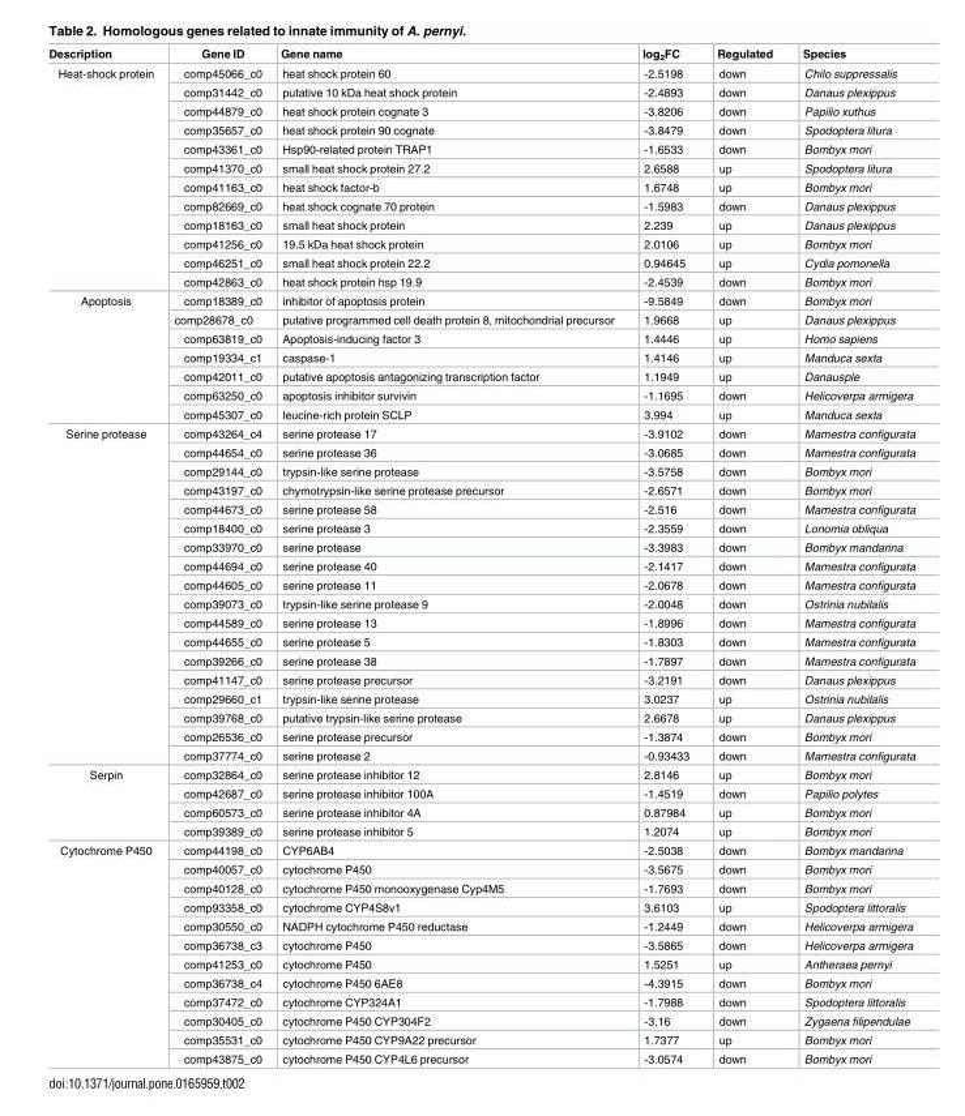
<table><thead><tr><td>Description</td><td>Gene ID</td><td>Gene name</td><td>log<sub>2</sub>FC</td><td>Regulated</td><td>Species</td></tr></thead><tbody><tr><td rowspan="12">Heat-shock protein</td><td>comp45066_c0</td><td>heat shock protein 60</td><td>-2.5198</td><td>down</td><td>Chilo suppressalis</td></tr><tr><td>comp31442_c0</td><td>putative 10 kDa heat shock protein</td><td>-2.4893</td><td>down</td><td>Danaus plexippus</td></tr><tr><td>comp44879_c0</td><td>heat shock protein cognate 3</td><td>-3.8206</td><td>down</td><td>Papilio xuthus</td></tr><tr><td>comp35657_c0</td><td>heat shock protein 90 cognate</td><td>-3.8479</td><td>down</td><td>Spodoptera litura</td></tr><tr><td>comp43361_c0</td><td>Hsp90-related protein TRAP1</td><td>-1.6533</td><td>down</td><td>Bombyx mori</td></tr><tr><td>comp41370_c0</td><td>small heat shock protein 27.2</td><td>2.6588</td><td>up</td><td>Spodoptera litura</td></tr><tr><td>comp41163_c0</td><td>heat shock factor-b</td><td>1.6748</td><td>up</td><td>Bombyx mori</td></tr><tr><td>comp82669_c0</td><td>heat shock cognate 70 protein</td><td>-1.5983</td><td>down</td><td>Danaus plexippus</td></tr><tr><td>comp18163_c0</td><td>small heat shock protein</td><td>2.239</td><td>up</td><td>Danaus plexippus</td></tr><tr><td>comp41256_c0</td><td>19.5 kDa heat shock protein</td><td>2.0106</td><td>up</td><td>Bombyx mori</td></tr><tr><td>comp46251_c0</td><td>small heat shock protein 22.2</td><td>0.94645</td><td>up</td><td>Cydia pomonella</td></tr><tr><td>comp42863_c0</td><td>heat shock protein hsp 19.9</td><td>-2.4539</td><td>down</td><td>Bombyx mori</td></tr><tr><td rowspan="7">Apoptosis</td><td>comp18389_c0</td><td>inhibitor of apoptosis protein</td><td>-9.5849</td><td>down</td><td>Bombyx mori</td></tr><tr><td>comp28678_c0</td><td>putative programmed cell death protein 8, mitochondrial precursor</td><td>1.9668</td><td>up</td><td>Danaus plexippus</td></tr><tr><td>comp63819_c0</td><td>Apoptosis-inducing factor 3</td><td>1.4446</td><td>up</td><td>Homo sapiens</td></tr><tr><td>comp19334_c1</td><td>caspase-1</td><td>1.4146</td><td>up</td><td>Manduca sexta</td></tr><tr><td>comp42011_c0</td><td>putative apoptosis antagonizing transcription factor</td><td>1.1949</td><td>up</td><td>Danausple</td></tr><tr><td>comp63250_c0</td><td>apoptosis inhibitor survivin</td><td>-1.1695</td><td>down</td><td>Helicoverpa armigera</td></tr><tr><td>comp45307_c0</td><td>leucine-rich protein SCLP</td><td>3.994</td><td>up</td><td>Manduca sexta</td></tr><tr><td rowspan="18">Serine protease</td><td>comp43264_c4</td><td>serine protease 17</td><td>-3.9102</td><td>down</td><td>Mamestra configurata</td></tr><tr><td>comp44654_c0</td><td>serine protease 36</td><td>-3.0685</td><td>down</td><td>Mamestra configurata</td></tr><tr><td>comp29144_c0</td><td>trypsin-like serine protease</td><td>-3.5758</td><td>down</td><td>Bombyx mori</td></tr><tr><td>comp43197_c0</td><td>chymotrypsin-like serine protease precursor</td><td>-2.6571</td><td>down</td><td>Bombyx mori</td></tr><tr><td>comp44673_c0</td><td>serine protease 58</td><td>-2.516</td><td>down</td><td>Mamestra configurata</td></tr><tr><td>comp18400_c0</td><td>serine protease 3</td><td>-2.3559</td><td>down</td><td>Lonomia obliqua</td></tr><tr><td>comp33970_c0</td><td>serine protease</td><td>-3.3983</td><td>down</td><td>Bombyx mandarina</td></tr><tr><td>comp44694_c0</td><td>serine protease 40</td><td>-2.1417</td><td>down</td><td>Mamestra configurata</td></tr><tr><td>comp44605_c0</td><td>serine protease 11</td><td>-2.0678</td><td>down</td><td>Mamestra configurata</td></tr><tr><td>comp39073_c0</td><td>trypsin-like serine protease 9</td><td>-2.0048</td><td>down</td><td>Ostrinia nubilalis</td></tr><tr><td>comp44589_c0</td><td>serine protease 13</td><td>-1.8996</td><td>down</td><td>Mamestra configurata</td></tr><tr><td>comp44655_c0</td><td>serine protease 5</td><td>-1.8303</td><td>down</td><td>Mamestra configurata</td></tr><tr><td>comp39266_c0</td><td>serine protease 38</td><td>-1.7897</td><td>down</td><td>Mamestra configurata</td></tr><tr><td>comp41147_c0</td><td>serine protease precursor</td><td>-3.2191</td><td>down</td><td>Danaus plexippus</td></tr><tr><td>comp29660_c1</td><td>trypsin-like serine protease</td><td>3.0237</td><td>up</td><td>Ostrinia nubilalis</td></tr><tr><td>comp39768_c0</td><td>putative trypsin-like serine protease</td><td>2.6678</td><td>up</td><td>Danaus plexippus</td></tr><tr><td>comp26536_c0</td><td>serine protease precursor</td><td>-1.3874</td><td>down</td><td>Bombyx mori</td></tr><tr><td>comp37774_c0</td><td>serine protease 2</td><td>-0.93433</td><td>down</td><td>Mamestra configurata</td></tr><tr><td rowspan="4">Serpin</td><td>comp32864_c0</td><td>serine protease inhibitor 12</td><td>2.8146</td><td>up</td><td>Bombyx mori</td></tr><tr><td>comp42687_c0</td><td>serine protease inhibitor 100A</td><td>-1.4519</td><td>down</td><td>Papilio polytes</td></tr><tr><td>comp60573_c0</td><td>serine protease inhibitor 4A</td><td>0.87984</td><td>up</td><td>Bombyx mori</td></tr><tr><td>comp39389_c0</td><td>serine protease inhibitor 5</td><td>1.2074</td><td>up</td><td>Bombyx mori</td></tr><tr><td rowspan="12">Cytochrome P450</td><td>comp44198_c0</td><td>CYP6AB4</td><td>-2.5038</td><td>down</td><td>Bombyx mandarina</td></tr><tr><td>comp40057_c0</td><td>cytochrome P450</td><td>-3.5675</td><td>down</td><td>Bombyx mori</td></tr><tr><td>comp40128_c0</td><td>cytochrome P450 monooxygenase Cyp4M5</td><td>-1.7693</td><td>down</td><td>Bombyx mori</td></tr><tr><td>comp93358_c0</td><td>cytochrome CYP4S8v1</td><td>3.6103</td><td>up</td><td>Spodoptera littoralis</td></tr><tr><td>comp30550_c0</td><td>NADPH cytochrome P450 reductase</td><td>-1.2449</td><td>down</td><td>Helicoverpa armigera</td></tr><tr><td>comp36738_c3</td><td>cytochrome P450</td><td>-3.5865</td><td>down</td><td>Helicoverpa armigera</td></tr><tr><td>comp41253_c0</td><td>cytochrome P450</td><td>1.5251</td><td>up</td><td>Antheraea pernyi</td></tr><tr><td>comp36738_c4</td><td>cytochrome P450 6AE8</td><td>-4.3915</td><td>down</td><td>Bombyx mori</td></tr><tr><td>comp37472_c0</td><td>cytochrome CYP324A1</td><td>-1.7988</td><td>down</td><td>Spodoptera littoralis</td></tr><tr><td>comp30405_c0</td><td>cytochrome P450 CYP304F2</td><td>-3.16</td><td>down</td><td>Zygaena filipendulae</td></tr><tr><td>comp35531_c0</td><td>cytochrome P450 CYP9A22 precursor</td><td>1.7377</td><td>up</td><td>Bombyx mori</td></tr><tr><td>comp43875_c0</td><td>cytochrome P450 CYP4L6 precursor</td><td>-3.0574</td><td>down</td><td>Bombyx mori</td></tr></tbody></table>